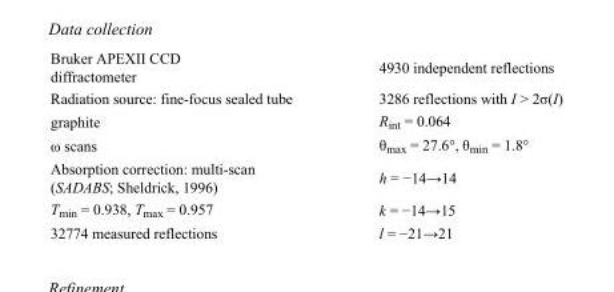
<table><tbody><tr><td>Bruker APEXII CCD diffractometer</td><td>4930 independent reflections</td></tr><tr><td>Radiation source: fine-focus sealed tube</td><td>3286 reflections with I &gt; 2σ(I)</td></tr><tr><td>graphite</td><td>R<sub>int</sub> = 0.064</td></tr><tr><td>ω scans</td><td>θ<sub>max</sub> = 27.6°, θ<sub>min</sub> = 1.8°</td></tr><tr><td>Absorption correction: multi-scan (SADABS; Sheldrick, 1996)</td><td>h = −14→14</td></tr><tr><td>T<sub>min</sub> = 0.938, T<sub>max</sub> = 0.957</td><td>k = −14→15</td></tr><tr><td>32774 measured reflections</td><td>l = −21→21</td></tr></tbody></table>